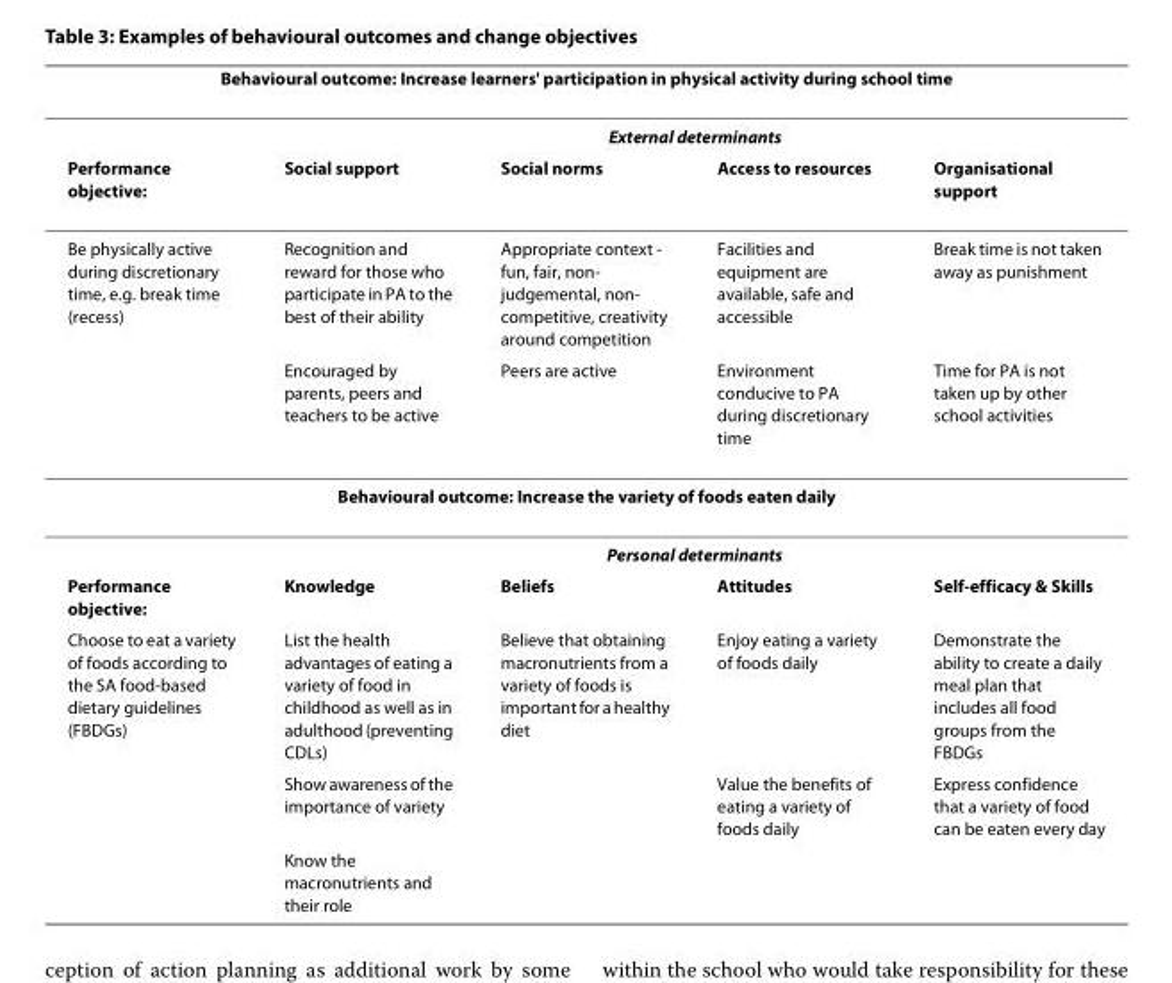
<table><thead><tr><td colspan="5">Behavioural outcome: Increase learners&#x27; participation in physical activity during school time</td></tr><tr><td rowspan="2">Performance objective:</td><td colspan="4">External determinants</td></tr><tr><td>Social support</td><td>Social norms</td><td>Access to resources</td><td>Organisational support</td></tr></thead><tbody><tr><td rowspan="2">Be physically active during discretionary time, e.g. break time (recess)</td><td>Recognition and reward for those who participate in PA to the best of their ability</td><td>Appropriate context - fun, fair, non- judgemental, non- competitive, creativity around competition</td><td>Facilities and equipment are available, safe and accessible</td><td>Break time is not taken away as punishment</td></tr><tr><td>Encouraged by parents, peers and teachers to be active</td><td>Peers are active</td><td>Environment conducive to PA during discretionary time</td><td>Time for PA is not taken up by other school activities</td></tr><tr><td colspan="5">Behavioural outcome: Increase the variety of foods eaten daily</td></tr><tr><td></td><td colspan="4">Personal determinants</td></tr><tr><td>Performance objective:</td><td>Knowledge</td><td>Beliefs</td><td>Attitudes</td><td>Self-efficacy &amp; Skills</td></tr><tr><td rowspan="3">Choose to eat a variety of foods according to the SA food-based dietary guidelines (FBDGs)</td><td>List the health advantages of eating a variety of food in childhood as well as in adulthood (preventing CDLs)</td><td>Believe that obtaining macronutrients from a variety of foods is important for a healthy diet</td><td>Enjoy eating a variety of foods daily</td><td>Demonstrate the ability to create a daily meal plan that includes all food groups from the FBDGs</td></tr><tr><td>Show awareness of the importance of variety</td><td></td><td>Value the benefits of eating a variety of foods daily</td><td>Express confidence that a variety of food can be eaten every day</td></tr><tr><td>Know the macronutrients and their role</td><td></td><td></td><td></td></tr></tbody></table>